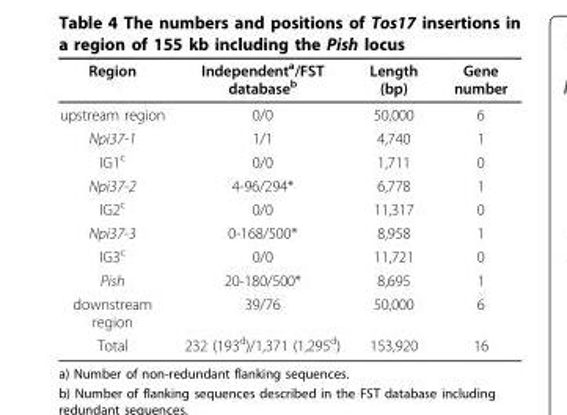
<table><thead><tr><td>Region</td><td>Independent<sup>a</sup>/FST database<sup>b</sup></td><td>Length (bp)</td><td>Gene number</td></tr></thead><tbody><tr><td>upstream region</td><td>0/0</td><td>50,000</td><td>6</td></tr><tr><td>Npi37-1</td><td>1/1</td><td>4,740</td><td>1</td></tr><tr><td>IG1<sup>c</sup></td><td>0/0</td><td>1,711</td><td>0</td></tr><tr><td>Npi37-2</td><td>4-96/294*</td><td>6,778</td><td>1</td></tr><tr><td>IG2<sup>c</sup></td><td>0/0</td><td>11,317</td><td>0</td></tr><tr><td>Npi37-3</td><td>0-168/500*</td><td>8,958</td><td>1</td></tr><tr><td>IG3<sup>c</sup></td><td>0/0</td><td>11,721</td><td>0</td></tr><tr><td>Pish</td><td>20-180/500*</td><td>8,695</td><td>1</td></tr><tr><td>downstream region</td><td>39/76</td><td>50,000</td><td>6</td></tr><tr><td>Total</td><td>232 (193<sup>d</sup>)/1,371 (1,295<sup>d</sup>)</td><td>153,920</td><td>16</td></tr></tbody></table>